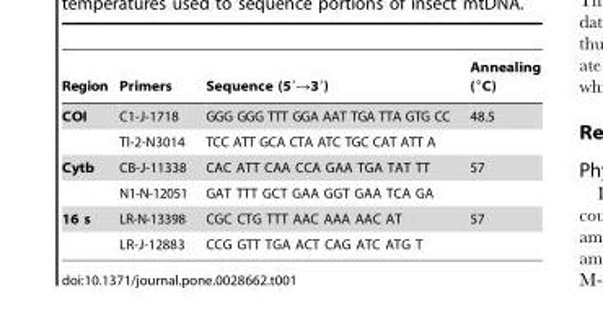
<table><thead><tr><td>Region</td><td>Primers</td><td>Sequence (5′→3′)</td><td>Annealing (°C)</td></tr></thead><tbody><tr><td rowspan="2">COI</td><td>C1-J-1718</td><td>GGG GGG TTT GGA AAT TGA TTA GTG CC</td><td>48.5</td></tr><tr><td>Tl-2-N3014</td><td>TCC ATT GCA CTA ATC TGC CAT ATT A</td><td></td></tr><tr><td rowspan="2">Cytb</td><td>CB-J-11338</td><td>CAC ATT CAA CCA GAA TGA TAT TT</td><td>57</td></tr><tr><td>N1-N-12051</td><td>GAT TTT GCT GAA GGT GAA TCA GA</td><td></td></tr><tr><td rowspan="2">16 s</td><td>LR-N-13398</td><td>CGC CTG TTT AAC AAA AAC AT</td><td>57</td></tr><tr><td>LR-J-12883</td><td>CCG GTT TGA ACT CAG ATC ATG T</td><td></td></tr></tbody></table>